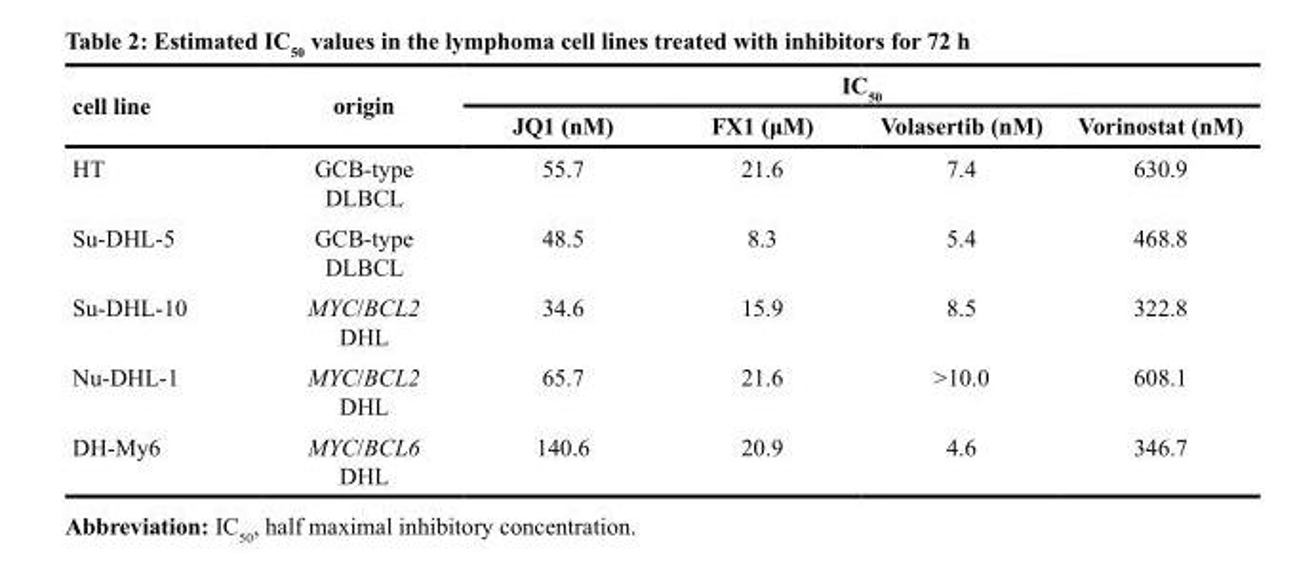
<table><thead><tr><td rowspan="2">cell line</td><td rowspan="2">origin</td><td colspan="4">IC<sub>50</sub></td></tr><tr><td>JQ1 (nM)</td><td>FX1 (μM)</td><td>Volasertib (nM)</td><td>Vorinostat (nM)</td></tr></thead><tbody><tr><td>HT</td><td>GCB-type DLBCL</td><td>55.7</td><td>21.6</td><td>7.4</td><td>630.9</td></tr><tr><td>Su-DHL-5</td><td>GCB-type DLBCL</td><td>48.5</td><td>8.3</td><td>5.4</td><td>468.8</td></tr><tr><td>Su-DHL-10</td><td>MYC/BCL2 DHL</td><td>34.6</td><td>15.9</td><td>8.5</td><td>322.8</td></tr><tr><td>Nu-DHL-1</td><td>MYC/BCL2 DHL</td><td>65.7</td><td>21.6</td><td>&gt;10.0</td><td>608.1</td></tr><tr><td>DH-My6</td><td>MYC/BCL6 DHL</td><td>140.6</td><td>20.9</td><td>4.6</td><td>346.7</td></tr></tbody></table>